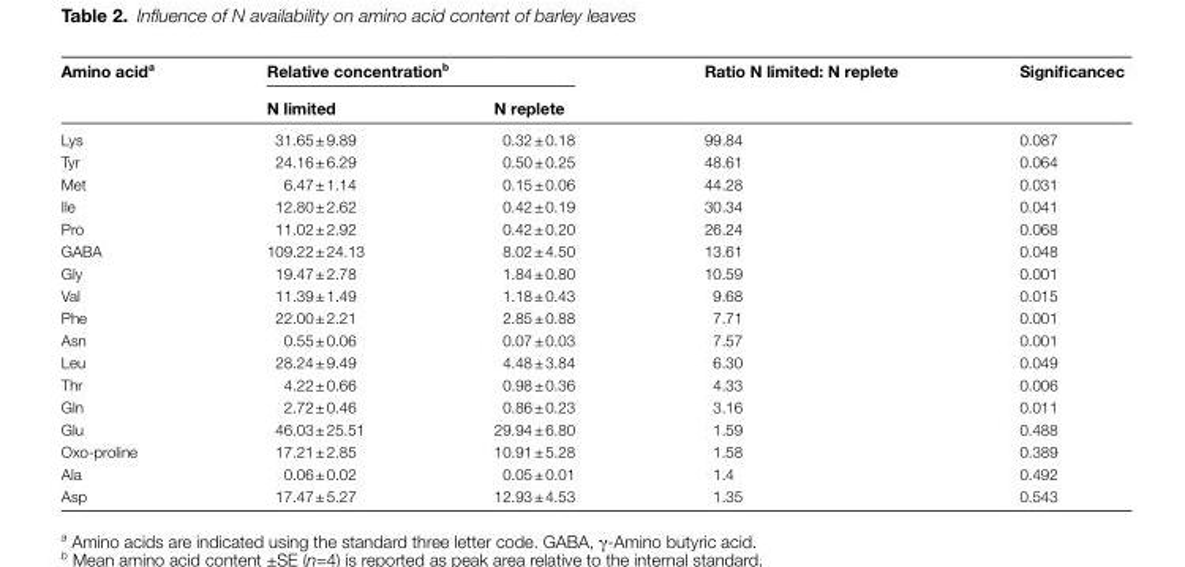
<table><thead><tr><td rowspan="2">Amino acid<sup>a</sup></td><td colspan="2">Relative concentration<sup>b</sup></td><td rowspan="2">Ratio N limited: N replete</td><td rowspan="2">Significance<sup>c</sup></td></tr><tr><td>N limited</td><td>N replete</td></tr></thead><tbody><tr><td>Lys</td><td>31.65 ± 9.89</td><td>0.32 ± 0.18</td><td>99.84</td><td>0.087</td></tr><tr><td>Tyr</td><td>24.16 ± 6.29</td><td>0.50 ± 0.25</td><td>48.61</td><td>0.064</td></tr><tr><td>Met</td><td>6.47 ± 1.14</td><td>0.15 ± 0.06</td><td>44.28</td><td>0.031</td></tr><tr><td>Ile</td><td>12.80 ± 2.62</td><td>0.42 ± 0.19</td><td>30.34</td><td>0.041</td></tr><tr><td>Pro</td><td>11.02 ± 2.92</td><td>0.42 ± 0.20</td><td>26.24</td><td>0.068</td></tr><tr><td>GABA</td><td>109.22 ± 24.13</td><td>8.02 ± 4.50</td><td>13.61</td><td>0.048</td></tr><tr><td>Gly</td><td>19.47 ± 2.78</td><td>1.84 ± 0.80</td><td>10.59</td><td>0.001</td></tr><tr><td>Val</td><td>11.39 ± 1.49</td><td>1.18 ± 0.43</td><td>9.68</td><td>0.015</td></tr><tr><td>Phe</td><td>22.00 ± 2.21</td><td>2.85 ± 0.88</td><td>7.71</td><td>0.001</td></tr><tr><td>Asn</td><td>0.55 ± 0.06</td><td>0.07 ± 0.03</td><td>7.57</td><td>0.001</td></tr><tr><td>Leu</td><td>28.24 ± 9.49</td><td>4.48 ± 3.84</td><td>6.30</td><td>0.049</td></tr><tr><td>Thr</td><td>4.22 ± 0.66</td><td>0.98 ± 0.36</td><td>4.33</td><td>0.006</td></tr><tr><td>Gln</td><td>2.72 ± 0.46</td><td>0.86 ± 0.23</td><td>3.16</td><td>0.011</td></tr><tr><td>Glu</td><td>46.03 ± 25.51</td><td>29.94 ± 6.80</td><td>1.59</td><td>0.488</td></tr><tr><td>Oxo-proline</td><td>17.21 ± 2.85</td><td>10.91 ± 5.28</td><td>1.58</td><td>0.389</td></tr><tr><td>Ala</td><td>0.06 ± 0.02</td><td>0.05 ± 0.01</td><td>1.4</td><td>0.492</td></tr><tr><td>Asp</td><td>17.47 ± 5.27</td><td>12.93 ± 4.53</td><td>1.35</td><td>0.543</td></tr></tbody></table>